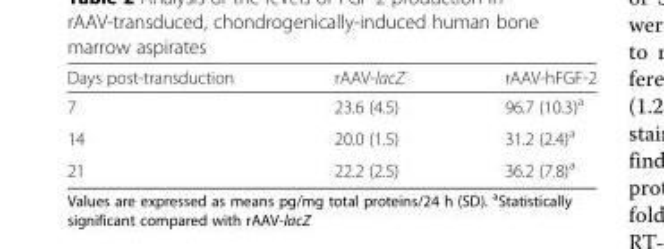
<table><thead><tr><td>Days post-transduction</td><td>rAAV-lacZ</td><td>rAAV-hFGF-2</td></tr></thead><tbody><tr><td>7</td><td>23.6 (4.5)</td><td>96.7 (10.3)<sup>a</sup></td></tr><tr><td>14</td><td>20.0 (1.5)</td><td>31.2 (2.4)<sup>a</sup></td></tr><tr><td>21</td><td>22.2 (2.5)</td><td>36.2 (7.8)<sup>a</sup></td></tr></tbody></table>